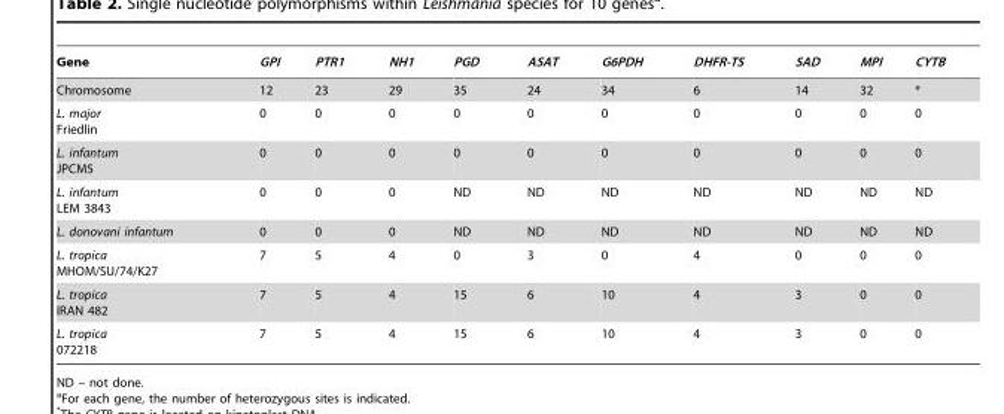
<table><thead><tr><td>Gene</td><td>GPI</td><td>PTR1</td><td>NH1</td><td>PGD</td><td>ASAT</td><td>G6PDH</td><td>DHFR-TS</td><td>SAD</td><td>MPI</td><td>CYTB</td></tr></thead><tbody><tr><td>Chromosome</td><td>12</td><td>23</td><td>29</td><td>35</td><td>24</td><td>34</td><td>6</td><td>14</td><td>32</td><td>*</td></tr><tr><td>L. major Friedlin</td><td>0</td><td>0</td><td>0</td><td>0</td><td>0</td><td>0</td><td>0</td><td>0</td><td>0</td><td>0</td></tr><tr><td>L. infantum JPCM5</td><td>0</td><td>0</td><td>0</td><td>0</td><td>0</td><td>0</td><td>0</td><td>0</td><td>0</td><td>0</td></tr><tr><td>L. infantum LEM 3843</td><td>0</td><td>0</td><td>0</td><td>ND</td><td>ND</td><td>ND</td><td>ND</td><td>ND</td><td>ND</td><td>ND</td></tr><tr><td>L. donovani infantum</td><td>0</td><td>0</td><td>0</td><td>ND</td><td>ND</td><td>ND</td><td>ND</td><td>ND</td><td>ND</td><td>ND</td></tr><tr><td>L. tropica MHOM/SU/74/K27</td><td>7</td><td>5</td><td>4</td><td>0</td><td>3</td><td>0</td><td>4</td><td>0</td><td>0</td><td>0</td></tr><tr><td>L. tropica IRAN 482</td><td>7</td><td>5</td><td>4</td><td>15</td><td>6</td><td>10</td><td>4</td><td>3</td><td>0</td><td>0</td></tr><tr><td>L. tropica 072218</td><td>7</td><td>5</td><td>4</td><td>15</td><td>6</td><td>10</td><td>4</td><td>3</td><td>0</td><td>0</td></tr></tbody></table>